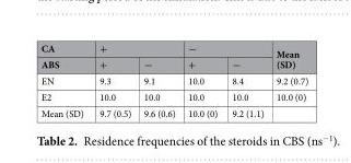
<table><thead><tr><td rowspan="2">CA ABS</td><td colspan="2">+</td><td colspan="2">−</td><td rowspan="2">Mean (SD)</td></tr><tr><td>+</td><td>−</td><td>+</td><td>−</td></tr></thead><tbody><tr><td>EN</td><td>9.3</td><td>9.1</td><td>10.0</td><td>8.4</td><td>9.2 (0.7)</td></tr><tr><td>E2</td><td>10.0</td><td>10.0</td><td>10.0</td><td>10.0</td><td>10.0 (0)</td></tr><tr><td>Mean (SD)</td><td>9.7 (0.5)</td><td>9.6 (0.6)</td><td>10.0 (0)</td><td>9.2 (1.1)</td><td></td></tr></tbody></table>